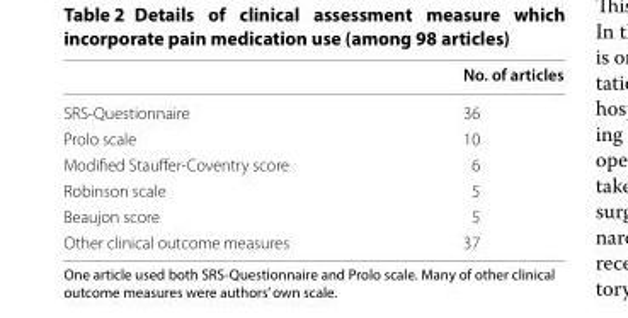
<table><thead><tr><td></td><td>No. of articles</td></tr></thead><tbody><tr><td>SRS-Questionnaire</td><td>36</td></tr><tr><td>Prolo scale</td><td>10</td></tr><tr><td>Modified Stauffer-Coventry score</td><td>6</td></tr><tr><td>Robinson scale</td><td>5</td></tr><tr><td>Beaujon score</td><td>5</td></tr><tr><td>Other clinical outcome measures</td><td>37</td></tr></tbody></table>